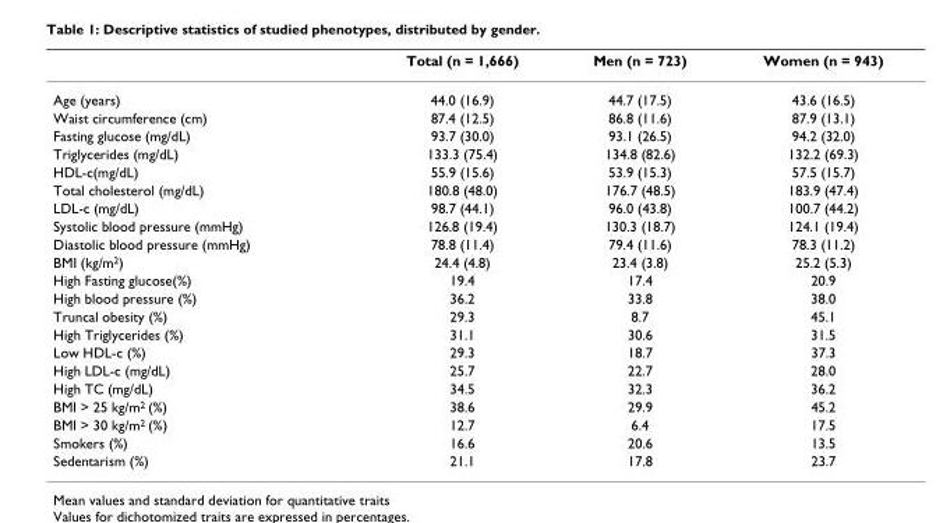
<table><thead><tr><td></td><td>Total (n = 1,666)</td><td>Men (n = 723)</td><td>Women (n = 943)</td></tr></thead><tbody><tr><td>Age (years)</td><td>44.0 (16.9)</td><td>44.7 (17.5)</td><td>43.6 (16.5)</td></tr><tr><td>Waist circumference (cm)</td><td>87.4 (12.5)</td><td>86.8 (11.6)</td><td>87.9 (13.1)</td></tr><tr><td>Fasting glucose (mg/dL)</td><td>93.7 (30.0)</td><td>93.1 (26.5)</td><td>94.2 (32.0)</td></tr><tr><td>Triglycerides (mg/dL)</td><td>133.3 (75.4)</td><td>134.8 (82.6)</td><td>132.2 (69.3)</td></tr><tr><td>HDL-c(mg/dL)</td><td>55.9 (15.6)</td><td>53.9 (15.3)</td><td>57.5 (15.7)</td></tr><tr><td>Total cholesterol (mg/dL)</td><td>180.8 (48.0)</td><td>176.7 (48.5)</td><td>183.9 (47.4)</td></tr><tr><td>LDL-c (mg/dL)</td><td>98.7 (44.1)</td><td>96.0 (43.8)</td><td>100.7 (44.2)</td></tr><tr><td>Systolic blood pressure (mmHg)</td><td>126.8 (19.4)</td><td>130.3 (18.7)</td><td>124.1 (19.4)</td></tr><tr><td>Diastolic blood pressure (mmHg)</td><td>78.8 (11.4)</td><td>79.4 (11.6)</td><td>78.3 (11.2)</td></tr><tr><td>BMI (kg/m<sup>2</sup>)</td><td>24.4 (4.8)</td><td>23.4 (3.8)</td><td>25.2 (5.3)</td></tr><tr><td>High Fasting glucose(%)</td><td>19.4</td><td>17.4</td><td>20.9</td></tr><tr><td>High blood pressure (%)</td><td>36.2</td><td>33.8</td><td>38.0</td></tr><tr><td>Truncal obesity (%)</td><td>29.3</td><td>8.7</td><td>45.1</td></tr><tr><td>High Triglycerides (%)</td><td>31.1</td><td>30.6</td><td>31.5</td></tr><tr><td>Low HDL-c (%)</td><td>29.3</td><td>18.7</td><td>37.3</td></tr><tr><td>High LDL-c (mg/dL)</td><td>25.7</td><td>22.7</td><td>28.0</td></tr><tr><td>High TC (mg/dL)</td><td>34.5</td><td>32.3</td><td>36.2</td></tr><tr><td>BMI &gt; 25 kg/m<sup>2</sup> (%)</td><td>38.6</td><td>29.9</td><td>45.2</td></tr><tr><td>BMI &gt; 30 kg/m<sup>2</sup> (%)</td><td>12.7</td><td>6.4</td><td>17.5</td></tr><tr><td>Smokers (%)</td><td>16.6</td><td>20.6</td><td>13.5</td></tr><tr><td>Sedentarism (%)</td><td>21.1</td><td>17.8</td><td>23.7</td></tr></tbody></table>